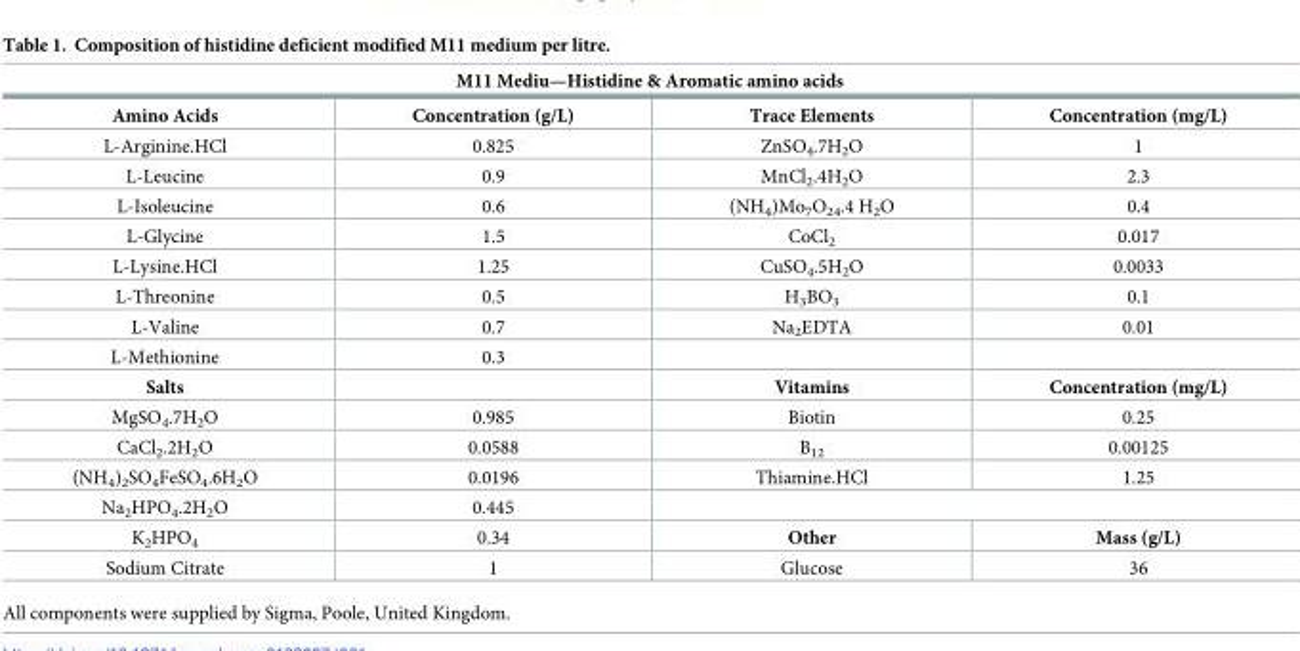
<table><thead><tr><td colspan="4">M11 Mediu—Histidine &amp; Aromatic amino acids</td></tr><tr><td>Amino Acids</td><td>Concentration (g/L)</td><td>Trace Elements</td><td>Concentration (mg/L)</td></tr></thead><tbody><tr><td>L-Arginine.HCl</td><td>0.825</td><td>ZnSO<sub>4</sub>.7H<sub>2</sub>O</td><td>1</td></tr><tr><td>L-Leucine</td><td>0.9</td><td>MnCl<sub>2</sub>.4H<sub>2</sub>O</td><td>2.3</td></tr><tr><td>L-Isoleucine</td><td>0.6</td><td>(NH<sub>4</sub>)Mo<sub>7</sub>O<sub>24</sub>.4 H<sub>2</sub>O</td><td>0.4</td></tr><tr><td>L-Glycine</td><td>1.5</td><td>CoCl<sub>2</sub></td><td>0.017</td></tr><tr><td>L-Lysine.HCl</td><td>1.25</td><td>CuSO<sub>4</sub>.5H<sub>2</sub>O</td><td>0.0033</td></tr><tr><td>L-Threonine</td><td>0.5</td><td>H<sub>3</sub>BO<sub>3</sub></td><td>0.1</td></tr><tr><td>L-Valine</td><td>0.7</td><td>Na<sub>2</sub>EDTA</td><td>0.01</td></tr><tr><td>L-Methionine</td><td>0.3</td><td></td><td></td></tr><tr><td>Salts</td><td></td><td>Vitamins</td><td>Concentration (mg/L)</td></tr><tr><td>MgSO<sub>4</sub>.7H<sub>2</sub>O</td><td>0.985</td><td>Biotin</td><td>0.25</td></tr><tr><td>CaCl<sub>2</sub>.2H<sub>2</sub>O</td><td>0.0588</td><td>B<sub>12</sub></td><td>0.00125</td></tr><tr><td>(NH<sub>4</sub>)<sub>2</sub>SO<sub>4</sub>FeSO<sub>4</sub>.6H<sub>2</sub>O</td><td>0.0196</td><td>Thiamine.HCl</td><td>1.25</td></tr><tr><td>Na<sub>2</sub>HPO<sub>4</sub>.2H<sub>2</sub>O</td><td>0.445</td><td colspan="2"></td></tr><tr><td>K<sub>2</sub>HPO<sub>4</sub></td><td>0.34</td><td>Other</td><td>Mass (g/L)</td></tr><tr><td>Sodium Citrate</td><td>1</td><td>Glucose</td><td>36</td></tr></tbody></table>